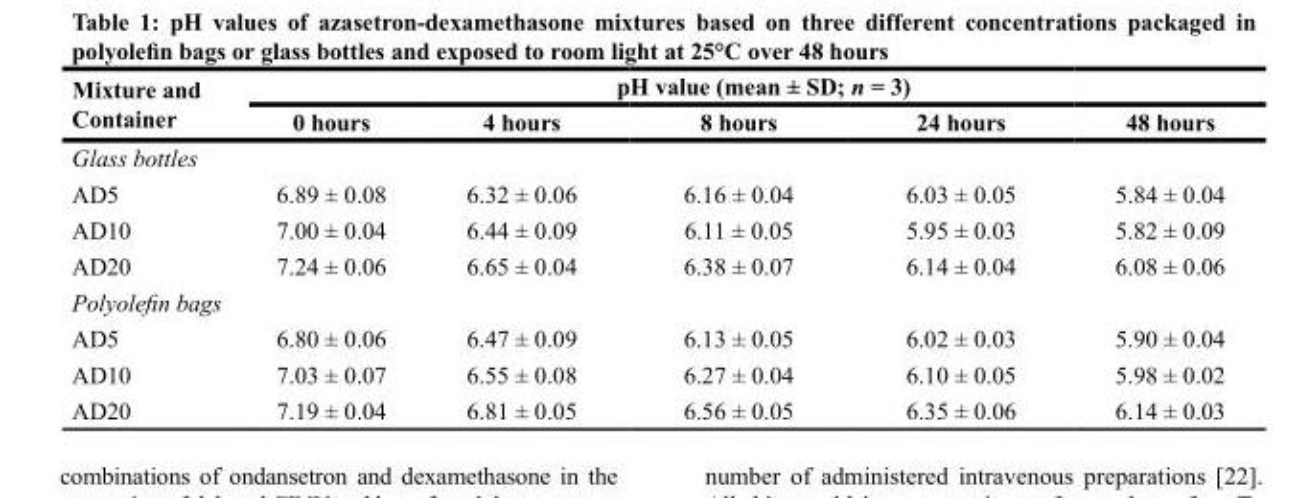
<table><thead><tr><td rowspan="2">Mixture and Container</td><td colspan="5">pH value (mean ± SD; n = 3)</td></tr><tr><td>0 hours</td><td>4 hours</td><td>8 hours</td><td>24 hours</td><td>48 hours</td></tr></thead><tbody><tr><td colspan="6">Glass bottles</td></tr><tr><td>AD5</td><td>6.89 ± 0.08</td><td>6.32 ± 0.06</td><td>6.16 ± 0.04</td><td>6.03 ± 0.05</td><td>5.84 ± 0.04</td></tr><tr><td>AD10</td><td>7.00 ± 0.04</td><td>6.44 ± 0.09</td><td>6.11 ± 0.05</td><td>5.95 ± 0.03</td><td>5.82 ± 0.09</td></tr><tr><td>AD20</td><td>7.24 ± 0.06</td><td>6.65 ± 0.04</td><td>6.38 ± 0.07</td><td>6.14 ± 0.04</td><td>6.08 ± 0.06</td></tr><tr><td colspan="6">Polyolefin bags</td></tr><tr><td>AD5</td><td>6.80 ± 0.06</td><td>6.47 ± 0.09</td><td>6.13 ± 0.05</td><td>6.02 ± 0.03</td><td>5.90 ± 0.04</td></tr><tr><td>AD10</td><td>7.03 ± 0.07</td><td>6.55 ± 0.08</td><td>6.27 ± 0.04</td><td>6.10 ± 0.05</td><td>5.98 ± 0.02</td></tr><tr><td>AD20</td><td>7.19 ± 0.04</td><td>6.81 ± 0.05</td><td>6.56 ± 0.05</td><td>6.35 ± 0.06</td><td>6.14 ± 0.03</td></tr></tbody></table>